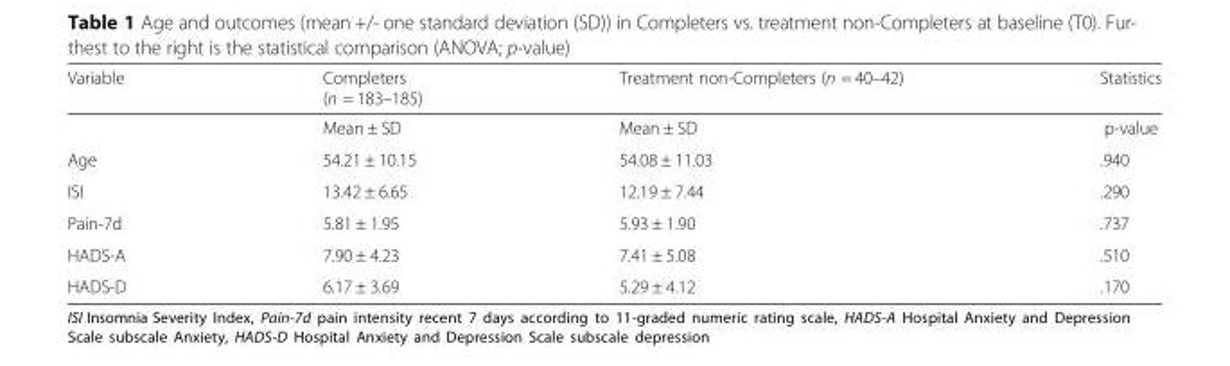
<table><thead><tr><td>Variable</td><td>Completers (n = 183–185)</td><td>Treatment non-Completers (n = 40–42)</td><td>Statistics</td></tr></thead><tbody><tr><td></td><td>Mean ± SD</td><td>Mean ± SD</td><td>p-value</td></tr><tr><td>Age</td><td>54.21 ± 10.15</td><td>54.08 ± 11.03</td><td>.940</td></tr><tr><td>ISI</td><td>13.42 ± 6.65</td><td>12.19 ± 7.44</td><td>.290</td></tr><tr><td>Pain-7d</td><td>5.81 ± 1.95</td><td>5.93 ± 1.90</td><td>.737</td></tr><tr><td>HADS-A</td><td>7.90 ± 4.23</td><td>7.41 ± 5.08</td><td>.510</td></tr><tr><td>HADS-D</td><td>6.17 ± 3.69</td><td>5.29 ± 4.12</td><td>.170</td></tr></tbody></table>